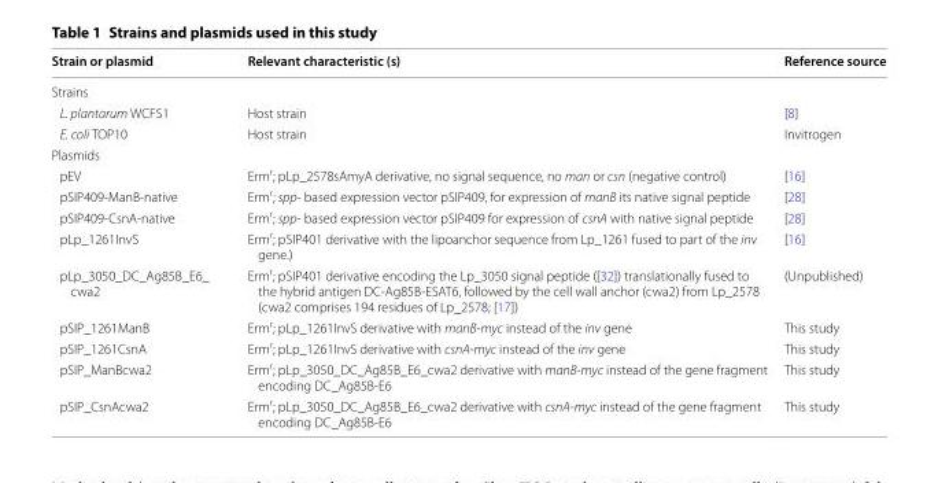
<table><thead><tr><td>Strain or plasmid</td><td>Relevant characteristic (s)</td><td>Reference source</td></tr></thead><tbody><tr><td colspan="3">Strains</td></tr><tr><td>L. plantarum WCFS1</td><td>Host strain</td><td>[8]</td></tr><tr><td>E. coli TOP10</td><td>Host strain</td><td>Invitrogen</td></tr><tr><td colspan="3">Plasmids</td></tr><tr><td>pEV</td><td>Erm<sup>r</sup>; pLp_2578sAmyA derivative, no signal sequence, no man or csn (negative control)</td><td>[16]</td></tr><tr><td>pSIP409‑ManB‑native</td><td>Erm<sup>r</sup>; spp‑ based expression vector pSIP409, for expression of manB its native signal peptide</td><td>[28]</td></tr><tr><td>pSIP409‑CsnA‑native</td><td>Erm<sup>r</sup>; spp‑ based expression vector pSIP409 for expression of csnA with native signal peptide</td><td>[28]</td></tr><tr><td>pLp_1261InvS</td><td>Erm<sup>r</sup>; pSIP401 derivative with the lipoanchor sequence from Lp_1261 fused to part of the inv gene.)</td><td>[16]</td></tr><tr><td>pLp_3050_DC_Ag85B_E6_ cwa2</td><td>Erm<sup>r</sup>; pSIP401 derivative encoding the Lp_3050 signal peptide ([32]) translationally fused to the hybrid antigen DC‑Ag85B‑ESAT6, followed by the cell wall anchor (cwa2) from Lp_2578 (cwa2 comprises 194 residues of Lp_2578; [17])</td><td>(Unpublished)</td></tr><tr><td>pSIP_1261ManB</td><td>Erm<sup>r</sup>; pLp_1261InvS derivative with manB‑myc instead of the inv gene</td><td>This study</td></tr><tr><td>pSIP_1261CsnA</td><td>Erm<sup>r</sup>; pLp_1261InvS derivative with csnA‑myc instead of the inv gene</td><td>This study</td></tr><tr><td>pSIP_ManBcwa2</td><td>Erm<sup>r</sup>; pLp_3050_DC_Ag85B_E6_cwa2 derivative with manB‑myc instead of the gene fragment encoding DC_Ag85B‑E6</td><td>This study</td></tr><tr><td>pSIP_CsnAcwa2</td><td>Erm<sup>r</sup>; pLp_3050_DC_Ag85B_E6_cwa2 derivative with csnA‑myc instead of the gene fragment encoding DC_Ag85B‑E6</td><td>This study</td></tr></tbody></table>